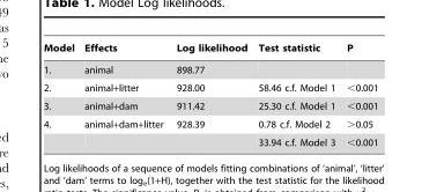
<table><thead><tr><td>Model</td><td>Effects</td><td>Log likelihood</td><td>Test statistic</td><td>P</td></tr></thead><tbody><tr><td>1.</td><td>animal</td><td>898.77</td><td></td><td></td></tr><tr><td>2.</td><td>animal+litter</td><td>928.00</td><td>58.46 c.f. Model 1</td><td>&lt;0.001</td></tr><tr><td>3.</td><td>animal+dam</td><td>911.42</td><td>25.30 c.f. Model 1</td><td>&lt;0.001</td></tr><tr><td rowspan="2">4.</td><td>animal+dam+litter</td><td>928.39</td><td>0.78 c.f. Model 2</td><td>&gt;0.05</td></tr><tr><td></td><td></td><td>33.94 c.f. Model 3</td><td>&lt;0.001</td></tr></tbody></table>